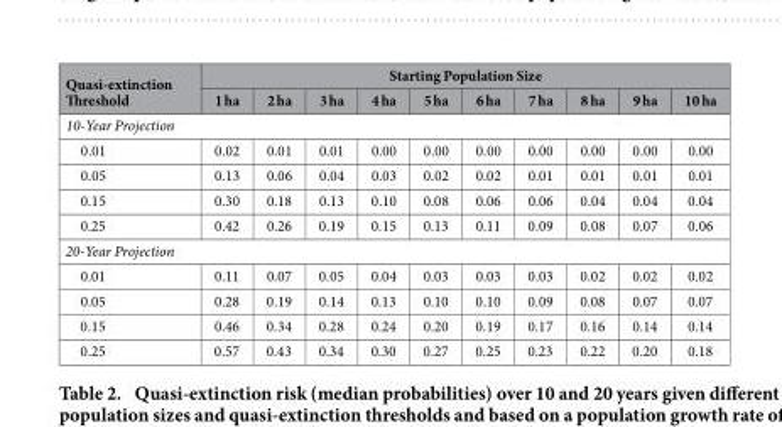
<table><thead><tr><td rowspan="2">Quasi-extinction Threshold</td><td colspan="10">Starting Population Size</td></tr><tr><td>1 ha</td><td>2 ha</td><td>3 ha</td><td>4 ha</td><td>5 ha</td><td>6 ha</td><td>7 ha</td><td>8 ha</td><td>9 ha</td><td>10 ha</td></tr></thead><tbody><tr><td colspan="11">10-Year Projection</td></tr><tr><td>0.01</td><td>0.02</td><td>0.01</td><td>0.01</td><td>0.00</td><td>0.00</td><td>0.00</td><td>0.00</td><td>0.00</td><td>0.00</td><td>0.00</td></tr><tr><td>0.05</td><td>0.13</td><td>0.06</td><td>0.04</td><td>0.03</td><td>0.02</td><td>0.02</td><td>0.01</td><td>0.01</td><td>0.01</td><td>0.01</td></tr><tr><td>0.15</td><td>0.30</td><td>0.18</td><td>0.13</td><td>0.10</td><td>0.08</td><td>0.06</td><td>0.06</td><td>0.04</td><td>0.04</td><td>0.04</td></tr><tr><td>0.25</td><td>0.42</td><td>0.26</td><td>0.19</td><td>0.15</td><td>0.13</td><td>0.11</td><td>0.09</td><td>0.08</td><td>0.07</td><td>0.06</td></tr><tr><td colspan="11">20-Year Projection</td></tr><tr><td>0.01</td><td>0.11</td><td>0.07</td><td>0.05</td><td>0.04</td><td>0.03</td><td>0.03</td><td>0.03</td><td>0.02</td><td>0.02</td><td>0.02</td></tr><tr><td>0.05</td><td>0.28</td><td>0.19</td><td>0.14</td><td>0.13</td><td>0.10</td><td>0.10</td><td>0.09</td><td>0.08</td><td>0.07</td><td>0.07</td></tr><tr><td>0.15</td><td>0.46</td><td>0.34</td><td>0.28</td><td>0.24</td><td>0.20</td><td>0.19</td><td>0.17</td><td>0.16</td><td>0.14</td><td>0.14</td></tr><tr><td>0.25</td><td>0.57</td><td>0.43</td><td>0.34</td><td>0.30</td><td>0.27</td><td>0.25</td><td>0.23</td><td>0.22</td><td>0.20</td><td>0.18</td></tr></tbody></table>